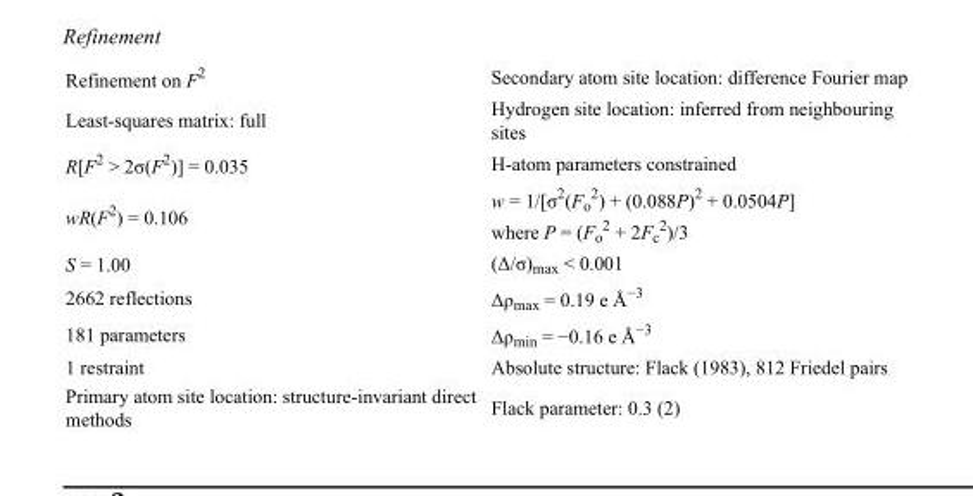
<table><tbody><tr><td>Refinement on F<sup>2</sup></td><td>Secondary atom site location: difference Fourier map</td></tr><tr><td>Least-squares matrix: full</td><td>Hydrogen site location: inferred from neighbouring sites</td></tr><tr><td>R[F<sup>2</sup> &gt; 2σ(F<sup>2</sup>)] = 0.035</td><td>H-atom parameters constrained</td></tr><tr><td>wR(F<sup>2</sup>) = 0.106</td><td>w = 1/[σ<sup>2</sup>(F<sub>o</sub> <sup>2</sup>) + (0.088P)<sup>2</sup> + 0.0504P] where P = (F<sub>o</sub> <sup>2</sup> + 2F<sub>c</sub> <sup>2</sup>)/3</td></tr><tr><td>S = 1.00</td><td>(Δ/σ)<sub>max</sub> &lt; 0.001</td></tr><tr><td>2662 reflections</td><td>Δρ<sub>max</sub> = 0.19 e Å<sup>−3</sup></td></tr><tr><td>181 parameters</td><td>Δρ<sub>min</sub> = −0.16 e Å<sup>−3</sup></td></tr><tr><td>1 restraint</td><td>Absolute structure: Flack (1983), 812 Friedel pairs</td></tr><tr><td>Primary atom site location: structure-invariant direct methods</td><td>Flack parameter: 0.3 (2)</td></tr></tbody></table>